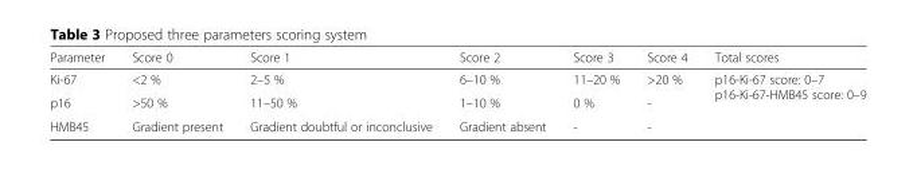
<table><thead><tr><td>Parameter</td><td>Score 0</td><td>Score 1</td><td>Score 2</td><td>Score 3</td><td>Score 4</td><td>Total scores</td></tr></thead><tbody><tr><td>Ki-67</td><td>&lt;2 %</td><td>2–5 %</td><td>6–10 %</td><td>11–20 %</td><td>&gt;20 %</td><td rowspan="3">p16-Ki-67 score: 0–7 p16-Ki-67-HMB45 score: 0–9</td></tr><tr><td>p16</td><td>&gt;50 %</td><td>11–50 %</td><td>1–10 %</td><td>0 %</td><td>-</td></tr><tr><td>HMB45</td><td>Gradient present</td><td>Gradient doubtful or inconclusive</td><td>Gradient absent</td><td>-</td><td>-</td></tr></tbody></table>